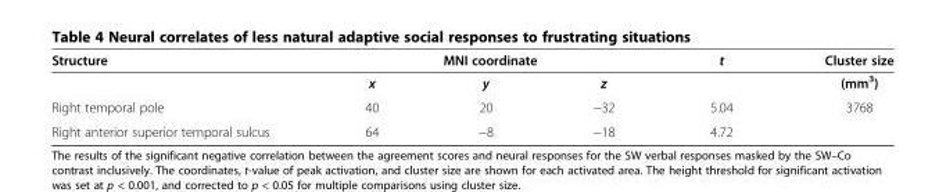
<table><thead><tr><td rowspan="2">Structure</td><td colspan="3">MNI coordinate</td><td rowspan="2">t</td><td rowspan="2">Cluster size (mm<sup>3</sup>)</td></tr><tr><td>x</td><td>y</td><td>z</td></tr></thead><tbody><tr><td>Right temporal pole</td><td>40</td><td>20</td><td>−32</td><td>5.04</td><td>3768</td></tr><tr><td>Right anterior superior temporal sulcus</td><td>64</td><td>−8</td><td>−18</td><td>4.72</td><td></td></tr></tbody></table>